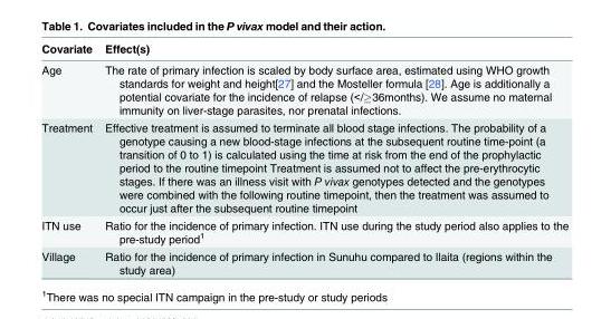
<table><thead><tr><td>Covariate</td><td>Effect(s)</td></tr></thead><tbody><tr><td>Age</td><td>The rate of primary infection is scaled by body surface area, estimated using WHO growth standards for weight and height[27] and the Mosteller formula [28]. Age is additionally a potential covariate for the incidence of relapse (&lt;/≥36months). We assume no maternal immunity on liver-stage parasites, nor prenatal infections.</td></tr><tr><td>Treatment</td><td>Effective treatment is assumed to terminate all blood stage infections. The probability of a genotype causing a new blood-stage infections at the subsequent routine time-point (a transition of 0 to 1) is calculated using the time at risk from the end of the prophylactic period to the routine timepoint Treatment is assumed not to affect the pre-erythrocytic stages. If there was an illness visit with P vivax genotypes detected and the genotypes were combined with the following routine timepoint, then the treatment was assumed to occur just after the subsequent routine timepoint</td></tr><tr><td>ITN use</td><td>Ratio for the incidence of primary infection. ITN use during the study period also applies to the pre-study period<sup>1</sup></td></tr><tr><td>Village</td><td>Ratio for the incidence of primary infection in Sunuhu compared to Ilaita (regions within the study area)</td></tr></tbody></table>